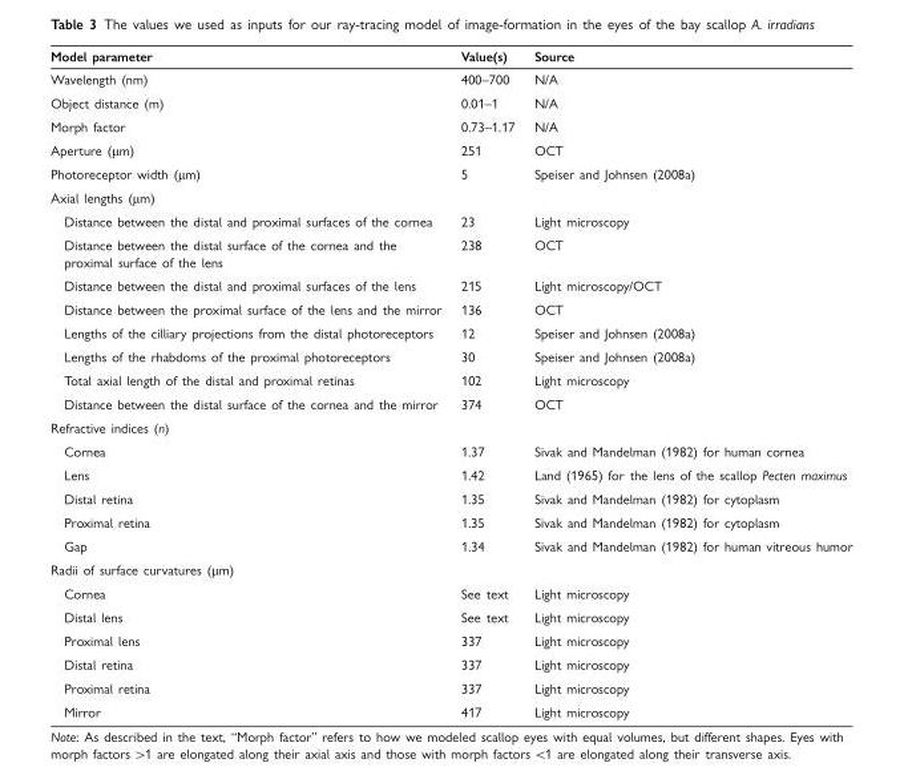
<table><thead><tr><td>Model parameter</td><td>Value(s)</td><td>Source</td></tr></thead><tbody><tr><td>Wavelength (nm)</td><td>400–700</td><td>N/A</td></tr><tr><td>Object distance (m)</td><td>0.01–1</td><td>N/A</td></tr><tr><td>Morph factor</td><td>0.73–1.17</td><td>N/A</td></tr><tr><td>Aperture (µm)</td><td>251</td><td>OCT</td></tr><tr><td>Photoreceptor width (µm)</td><td>5</td><td>Speiser and Johnsen (2008a)</td></tr><tr><td colspan="3">Axial lengths (µm)</td></tr><tr><td>Distance between the distal and proximal surfaces of the cornea</td><td>23</td><td>Light microscopy</td></tr><tr><td>Distance between the distal surface of the cornea and the proximal surface of the lens</td><td>238</td><td>OCT</td></tr><tr><td>Distance between the distal and proximal surfaces of the lens</td><td>215</td><td>Light microscopy/OCT</td></tr><tr><td>Distance between the proximal surface of the lens and the mirror</td><td>136</td><td>OCT</td></tr><tr><td>Lengths of the cilliary projections from the distal photoreceptors</td><td>12</td><td>Speiser and Johnsen (2008a)</td></tr><tr><td>Lengths of the rhabdoms of the proximal photoreceptors</td><td>30</td><td>Speiser and Johnsen (2008a)</td></tr><tr><td>Total axial length of the distal and proximal retinas</td><td>102</td><td>Light microscopy</td></tr><tr><td>Distance between the distal surface of the cornea and the mirror</td><td>374</td><td>OCT</td></tr><tr><td colspan="3">Refractive indices (n)</td></tr><tr><td>Cornea</td><td>1.37</td><td>Sivak and Mandelman (1982) for human cornea</td></tr><tr><td>Lens</td><td>1.42</td><td>Land (1965) for the lens of the scallop Pecten maximus</td></tr><tr><td>Distal retina</td><td>1.35</td><td>Sivak and Mandelman (1982) for cytoplasm</td></tr><tr><td>Proximal retina</td><td>1.35</td><td>Sivak and Mandelman (1982) for cytoplasm</td></tr><tr><td>Gap</td><td>1.34</td><td>Sivak and Mandelman (1982) for human vitreous humor</td></tr><tr><td colspan="3">Radii of surface curvatures (µm)</td></tr><tr><td>Cornea</td><td>See text</td><td>Light microscopy</td></tr><tr><td>Distal lens</td><td>See text</td><td>Light microscopy</td></tr><tr><td>Proximal lens</td><td>337</td><td>Light microscopy</td></tr><tr><td>Distal retina</td><td>337</td><td>Light microscopy</td></tr><tr><td>Proximal retina</td><td>337</td><td>Light microscopy</td></tr><tr><td>Mirror</td><td>417</td><td>Light microscopy</td></tr></tbody></table>